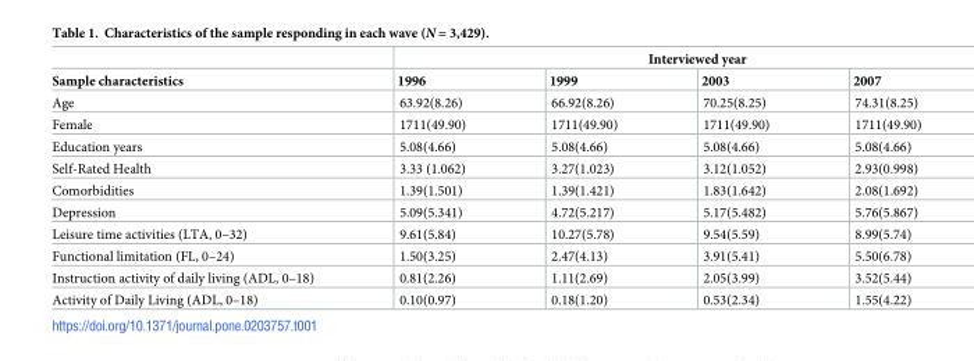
<table><thead><tr><td rowspan="2">Sample characteristics</td><td colspan="4">Interviewed year</td></tr><tr><td>1996</td><td>1999</td><td>2003</td><td>2007</td></tr></thead><tbody><tr><td>Age</td><td>63.92(8.26)</td><td>66.92(8.26)</td><td>70.25(8.25)</td><td>74.31(8.25)</td></tr><tr><td>Female</td><td>1711(49.90)</td><td>1711(49.90)</td><td>1711(49.90)</td><td>1711(49.90)</td></tr><tr><td>Education years</td><td>5.08(4.66)</td><td>5.08(4.66)</td><td>5.08(4.66)</td><td>5.08(4.66)</td></tr><tr><td>Self-Rated Health</td><td>3.33 (1.062)</td><td>3.27(1.023)</td><td>3.12(1.052)</td><td>2.93(0.998)</td></tr><tr><td>Comorbidities</td><td>1.39(1.501)</td><td>1.39(1.421)</td><td>1.83(1.642)</td><td>2.08(1.692)</td></tr><tr><td>Depression</td><td>5.09(5.341)</td><td>4.72(5.217)</td><td>5.17(5.482)</td><td>5.76(5.867)</td></tr><tr><td>Leisure time activities (LTA, 0–32)</td><td>9.61(5.84)</td><td>10.27(5.78)</td><td>9.54(5.59)</td><td>8.99(5.74)</td></tr><tr><td>Functional limitation (FL, 0–24)</td><td>1.50(3.25)</td><td>2.47(4.13)</td><td>3.91(5.41)</td><td>5.50(6.78)</td></tr><tr><td>Instruction activity of daily living (ADL, 0–18)</td><td>0.81(2.26)</td><td>1.11(2.69)</td><td>2.05(3.99)</td><td>3.52(5.44)</td></tr><tr><td>Activity of Daily Living (ADL, 0–18)</td><td>0.10(0.97)</td><td>0.18(1.20)</td><td>0.53(2.34)</td><td>1.55(4.22)</td></tr></tbody></table>